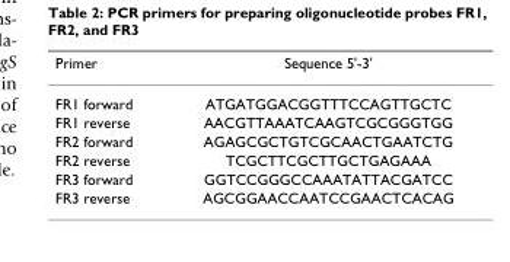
<table><thead><tr><td>Primer</td><td>Sequence 5&#x27;-3&#x27;</td></tr></thead><tbody><tr><td>FR1 forward</td><td>ATGATGGACGGTTTCCAGTTGCTC</td></tr><tr><td>FR1 reverse</td><td>AACGTTAAATCAAGTCGCGGGTGG</td></tr><tr><td>FR2 forward</td><td>AGAGCGCTGTCGCAACTGAATCTG</td></tr><tr><td>FR2 reverse</td><td>TCGCTTCGCTTGCTGAGAAA</td></tr><tr><td>FR3 forward</td><td>GGTCCGGGCCAAATATTACGATCC</td></tr><tr><td>FR3 reverse</td><td>AGCGGAACCAATCCGAACTCACAG</td></tr></tbody></table>